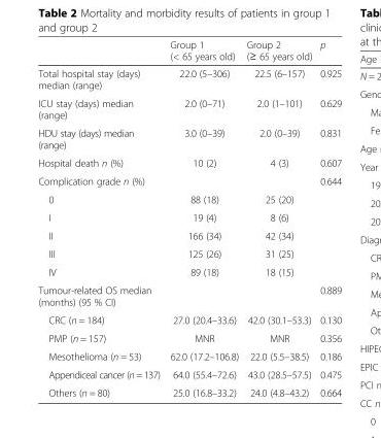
<table><thead><tr><td></td><td>Group 1 (&lt; 65 years old)</td><td>Group 2 (≥ 65 years old)</td><td>p</td></tr></thead><tbody><tr><td>Total hospital stay (days) median (range)</td><td>22.0 (5–306)</td><td>22.5 (6–157)</td><td>0.925</td></tr><tr><td>ICU stay (days) median (range)</td><td>2.0 (0–71)</td><td>2.0 (1–101)</td><td>0.629</td></tr><tr><td>HDU stay (days) median (range)</td><td>3.0 (0–39)</td><td>2.0 (0–39)</td><td>0.831</td></tr><tr><td>Hospital death n (%)</td><td>10 (2)</td><td>4 (3)</td><td>0.607</td></tr><tr><td>Complication grade n (%)</td><td></td><td></td><td>0.644</td></tr><tr><td>0</td><td>88 (18)</td><td>25 (20)</td><td></td></tr><tr><td>I</td><td>19 (4)</td><td>8 (6)</td><td></td></tr><tr><td>II</td><td>166 (34)</td><td>42 (34)</td><td></td></tr><tr><td>III</td><td>125 (26)</td><td>31 (25)</td><td></td></tr><tr><td>IV</td><td>89 (18)</td><td>18 (15)</td><td></td></tr><tr><td>Tumour-related OS median (months) (95 % CI)</td><td></td><td></td><td>0.889</td></tr><tr><td>CRC (n = 184)</td><td>27.0 (20.4–33.6)</td><td>42.0 (30.1–53.3)</td><td>0.130</td></tr><tr><td>PMP (n = 157)</td><td>MNR</td><td>MNR</td><td>0.356</td></tr><tr><td>Mesothelioma (n = 53)</td><td>62.0 (17.2–106.8)</td><td>22.0 (5.5–38.5)</td><td>0.186</td></tr><tr><td>Appendiceal cancer (n = 137)</td><td>64.0 (55.4–72.6)</td><td>43.0 (28.5–57.5)</td><td>0.475</td></tr><tr><td>Others (n = 80)</td><td>25.0 (16.8–33.2)</td><td>24.0 (4.8–43.2)</td><td>0.664</td></tr></tbody></table>